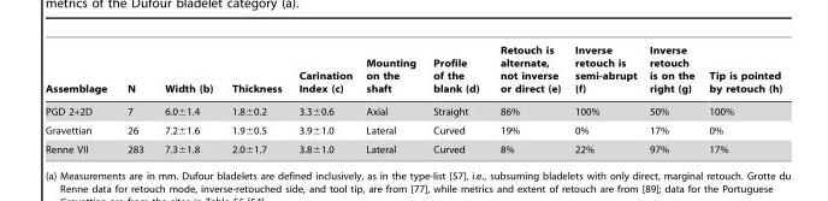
<table><thead><tr><td>Assemblage</td><td>N</td><td>Width (b)</td><td>Thickness</td><td>Carination Index (c)</td><td>Mounting on the shaft</td><td>Profile of the blank (d)</td><td>Retouch is alternate, not inverse or direct (e)</td><td>Inverse retouch is semi-abrupt (f)</td><td>Inverse retouch is on the right (g)</td><td>Tip is pointed by retouch (h)</td></tr></thead><tbody><tr><td>PGD 2+2D</td><td>7</td><td>6.0±1.4</td><td>1.8±0.2</td><td>3.3±0.6</td><td>Axial</td><td>Straight</td><td>86%</td><td>100%</td><td>50%</td><td>100%</td></tr><tr><td>Gravettian</td><td>26</td><td>7.2±1.6</td><td>1.9±0.5</td><td>3.9±1.0</td><td>Lateral</td><td>Curved</td><td>19%</td><td>0%</td><td>17%</td><td>0%</td></tr><tr><td>Renne VII</td><td>283</td><td>7.3±1.8</td><td>2.0±1.7</td><td>3.8±1.0</td><td>Lateral</td><td>Curved</td><td>8%</td><td>22%</td><td>97%</td><td>17%</td></tr></tbody></table>